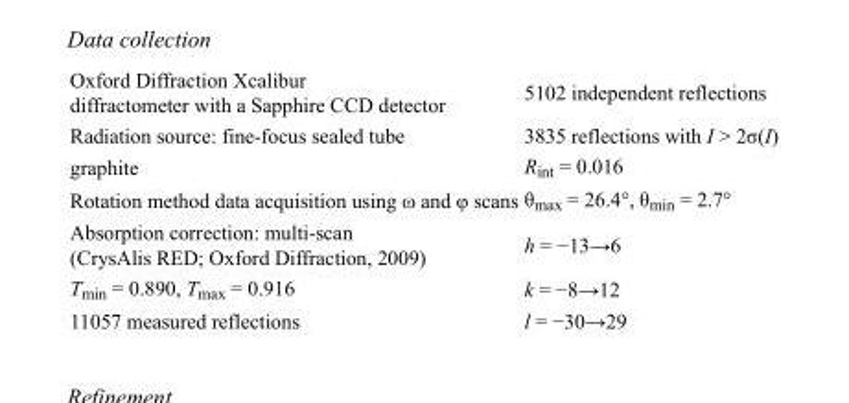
<table><tbody><tr><td>Oxford Diffraction Xcalibur diffractometer with a Sapphire CCD detector</td><td>5102 independent reflections</td></tr><tr><td>Radiation source: fine-focus sealed tube</td><td>3835 reflections with I &gt; 2σ(I)</td></tr><tr><td>graphite</td><td>R<sub>int</sub> = 0.016</td></tr><tr><td>Rotation method data acquisition using ω and φ scans</td><td>θ<sub>max</sub> = 26.4°, θ<sub>min</sub> = 2.7°</td></tr><tr><td>Absorption correction: multi-scan (CrysAlis RED; Oxford Diffraction, 2009)</td><td>h = −13→6</td></tr><tr><td>T<sub>min</sub> = 0.890, T<sub>max</sub> = 0.916</td><td>k = −8→12</td></tr><tr><td>11057 measured reflections</td><td>l = −30→29</td></tr></tbody></table>